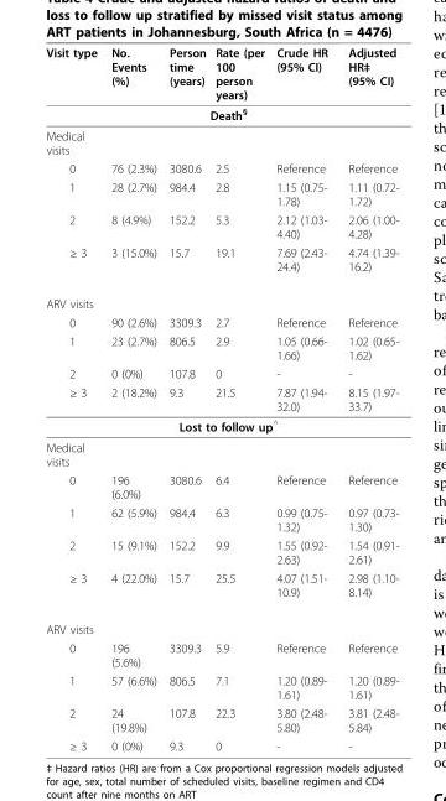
<table><thead><tr><td>Visit type</td><td>No. Events (%)</td><td>Person time (years)</td><td>Rate (per 100 person years)</td><td>Crude HR (95% CI)</td><td>Adjusted HR‡ (95% CI)</td></tr></thead><tbody><tr><td colspan="6">Death<sup>§</sup></td></tr><tr><td colspan="6">Medical visits</td></tr><tr><td>0</td><td>76 (2.3%)</td><td>3080.6</td><td>2.5</td><td>Reference</td><td>Reference</td></tr><tr><td>1</td><td>28 (2.7%)</td><td>984.4</td><td>2.8</td><td>1.15 (0.75- 1.78)</td><td>1.11 (0.72- 1.72)</td></tr><tr><td>2</td><td>8 (4.9%)</td><td>152.2</td><td>5.3</td><td>2.12 (1.03- 4.40)</td><td>2.06 (1.00- 4.28)</td></tr><tr><td>≥ 3</td><td>3 (15.0%)</td><td>15.7</td><td>19.1</td><td>7.69 (2.43- 24.4)</td><td>4.74 (1.39- 16.2)</td></tr><tr><td colspan="6">ARV visits</td></tr><tr><td>0</td><td>90 (2.6%)</td><td>3309.3</td><td>2.7</td><td>Reference</td><td>Reference</td></tr><tr><td>1</td><td>23 (2.7%)</td><td>806.5</td><td>2.9</td><td>1.05 (0.66- 1.66)</td><td>1.02 (0.65- 1.62)</td></tr><tr><td>2</td><td>0 (0%)</td><td>107.8</td><td>0</td><td>-</td><td>-</td></tr><tr><td>≥ 3</td><td>2 (18.2%)</td><td>9.3</td><td>21.5</td><td>7.87 (1.94- 32.0)</td><td>8.15 (1.97- 33.7)</td></tr><tr><td colspan="6">Lost to follow up<sup>^</sup></td></tr><tr><td colspan="6">Medical visits</td></tr><tr><td>0</td><td>196 (6.0%)</td><td>3080.6</td><td>6.4</td><td>Reference</td><td>Reference</td></tr><tr><td>1</td><td>62 (5.9%)</td><td>984.4</td><td>6.3</td><td>0.99 (0.75- 1.32)</td><td>0.97 (0.73- 1.30)</td></tr><tr><td>2</td><td>15 (9.1%)</td><td>152.2</td><td>9.9</td><td>1.55 (0.92- 2.63)</td><td>1.54 (0.91- 2.61)</td></tr><tr><td>≥ 3</td><td>4 (22.0%)</td><td>15.7</td><td>25.5</td><td>4.07 (1.51- 10.9)</td><td>2.98 (1.10- 8.14)</td></tr><tr><td colspan="6">ARV visits</td></tr><tr><td>0</td><td>196 (5.6%)</td><td>3309.3</td><td>5.9</td><td>Reference</td><td>Reference</td></tr><tr><td>1</td><td>57 (6.6%)</td><td>806.5</td><td>7.1</td><td>1.20 (0.89- 1.61)</td><td>1.20 (0.89- 1.61)</td></tr><tr><td>2</td><td>24 (19.8%)</td><td>107.8</td><td>22.3</td><td>3.80 (2.48- 5.80)</td><td>3.81 (2.48- 5.84)</td></tr><tr><td>≥ 3</td><td>0 (0%)</td><td>9.3</td><td>0</td><td>-</td><td>-</td></tr></tbody></table>